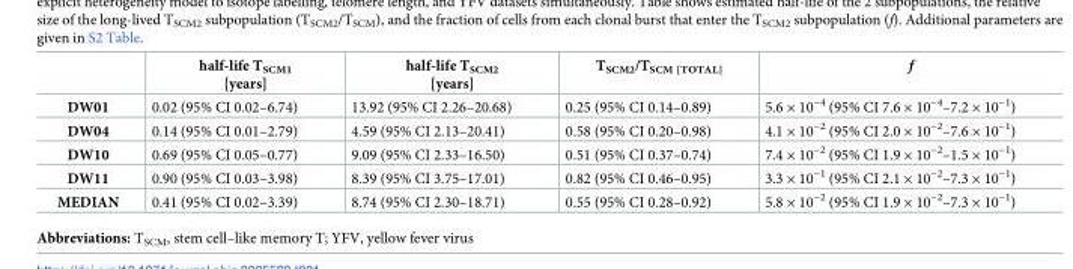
<table><thead><tr><td></td><td>half-life T<sub>SCM1</sub> [years]</td><td>half-life T<sub>SCM2</sub> [years]</td><td>T<sub>SCM2</sub>/T<sub>SCM [TOTAL]</sub></td><td>f</td></tr></thead><tbody><tr><td>DW01</td><td>0.02 (95% CI 0.02–6.74)</td><td>13.92 (95% CI 2.26–20.68)</td><td>0.25 (95% CI 0.14–0.89)</td><td>5.6 × 10<sup>−4</sup> (95% CI 7.6 × 10<sup>−4</sup>–7.2 × 10<sup>−1</sup>)</td></tr><tr><td>DW04</td><td>0.14 (95% CI 0.01–2.79)</td><td>4.59 (95% CI 2.13–20.41)</td><td>0.58 (95% CI 0.20–0.98)</td><td>4.1 × 10<sup>−2</sup> (95% CI 2.0 × 10<sup>−2</sup>–7.6 × 10<sup>−1</sup>)</td></tr><tr><td>DW10</td><td>0.69 (95% CI 0.05–0.77)</td><td>9.09 (95% CI 2.33–16.50)</td><td>0.51 (95% CI 0.37–0.74)</td><td>7.4 × 10<sup>−2</sup> (95% CI 1.9 × 10<sup>−2</sup>–1.5 × 10<sup>−1</sup>)</td></tr><tr><td>DW11</td><td>0.90 (95% CI 0.03–3.98)</td><td>8.39 (95% CI 3.75–17.01)</td><td>0.82 (95% CI 0.46–0.95)</td><td>3.3 × 10<sup>−1</sup> (95% CI 2.1 × 10<sup>−2</sup>–7.3 × 10<sup>−1</sup>)</td></tr><tr><td>MEDIAN</td><td>0.41 (95% CI 0.02–3.39)</td><td>8.74 (95% CI 2.30–18.71)</td><td>0.55 (95% CI 0.28–0.92)</td><td>5.8 × 10<sup>−2</sup> (95% CI 1.9 × 10<sup>−2</sup>–7.3 × 10<sup>−1</sup>)</td></tr></tbody></table>